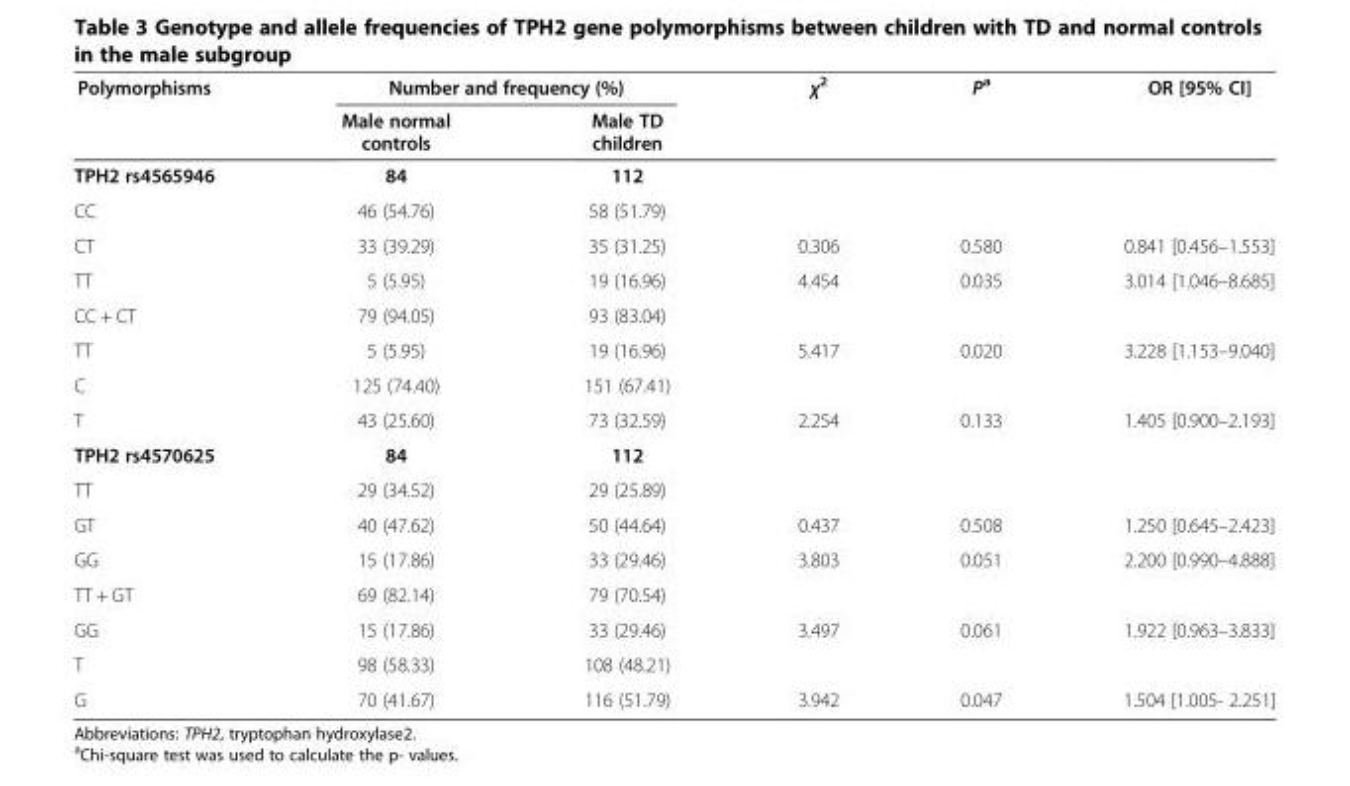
<table><thead><tr><td rowspan="2">Polymorphisms</td><td colspan="2">Number and frequency (%)</td><td rowspan="2">χ<sup>2</sup></td><td rowspan="2">P<sup>a</sup></td><td rowspan="2">OR [95% CI]</td></tr><tr><td>Male normal controls</td><td>Male TD children</td></tr></thead><tbody><tr><td>TPH2 rs4565946</td><td>84</td><td>112</td><td></td><td></td><td></td></tr><tr><td>CC</td><td>46 (54.76)</td><td>58 (51.79)</td><td></td><td></td><td></td></tr><tr><td>CT</td><td>33 (39.29)</td><td>35 (31.25)</td><td>0.306</td><td>0.580</td><td>0.841 [0.456–1.553]</td></tr><tr><td>TT</td><td>5 (5.95)</td><td>19 (16.96)</td><td>4.454</td><td>0.035</td><td>3.014 [1.046–8.685]</td></tr><tr><td>CC + CT</td><td>79 (94.05)</td><td>93 (83.04)</td><td></td><td></td><td></td></tr><tr><td>TT</td><td>5 (5.95)</td><td>19 (16.96)</td><td>5.417</td><td>0.020</td><td>3.228 [1.153–9.040]</td></tr><tr><td>C</td><td>125 (74.40)</td><td>151 (67.41)</td><td></td><td></td><td></td></tr><tr><td>T</td><td>43 (25.60)</td><td>73 (32.59)</td><td>2.254</td><td>0.133</td><td>1.405 [0.900–2.193]</td></tr><tr><td>TPH2 rs4570625</td><td>84</td><td>112</td><td></td><td></td><td></td></tr><tr><td>TT</td><td>29 (34.52)</td><td>29 (25.89)</td><td></td><td></td><td></td></tr><tr><td>GT</td><td>40 (47.62)</td><td>50 (44.64)</td><td>0.437</td><td>0.508</td><td>1.250 [0.645–2.423]</td></tr><tr><td>GG</td><td>15 (17.86)</td><td>33 (29.46)</td><td>3.803</td><td>0.051</td><td>2.200 [0.990–4.888]</td></tr><tr><td>TT + GT</td><td>69 (82.14)</td><td>79 (70.54)</td><td></td><td></td><td></td></tr><tr><td>GG</td><td>15 (17.86)</td><td>33 (29.46)</td><td>3.497</td><td>0.061</td><td>1.922 [0.963–3.833]</td></tr><tr><td>T</td><td>98 (58.33)</td><td>108 (48.21)</td><td></td><td></td><td></td></tr><tr><td>G</td><td>70 (41.67)</td><td>116 (51.79)</td><td>3.942</td><td>0.047</td><td>1.504 [1.005- 2.251]</td></tr></tbody></table>